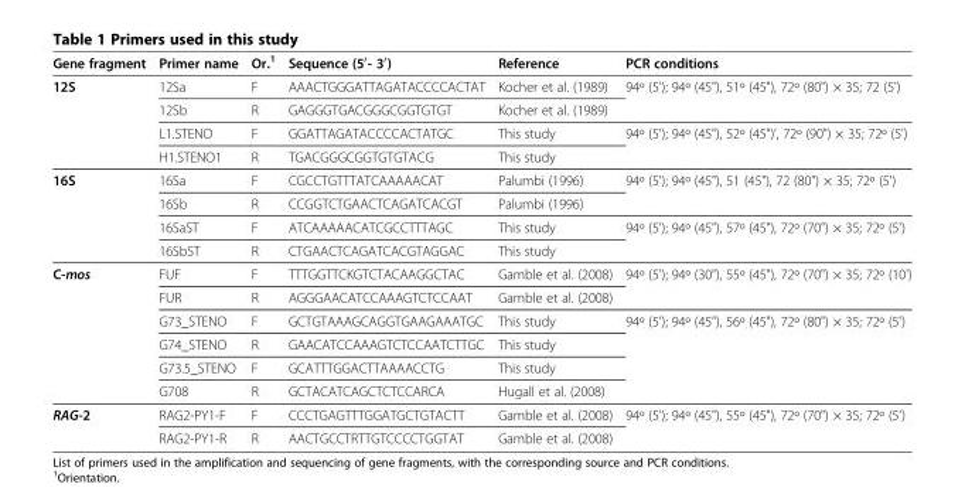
<table><thead><tr><td>Gene fragment</td><td>Primer name</td><td>Or.<sup>1</sup></td><td>Sequence (5′- 3′)</td><td>Reference</td><td>PCR conditions</td></tr></thead><tbody><tr><td rowspan="4">12S</td><td>12Sa</td><td>F</td><td>AAACTGGGATTAGATACCCCACTAT</td><td>Kocher et al. (1989)</td><td rowspan="2">94º (5&#x27;); 94º (45&quot;), 51º (45&quot;), 72º (80&quot;) × 35; 72 (5&#x27;)</td></tr><tr><td>12Sb</td><td>R</td><td>GAGGGTGACGGGCGGTGTGT</td><td>Kocher et al. (1989)</td></tr><tr><td>L1.STENO</td><td>F</td><td>GGATTAGATACCCCACTATGC</td><td>This study</td><td>94º (5&#x27;); 94º (45&quot;), 52º (45&quot;)’, 72º (90&quot;) × 35; 72º (5&#x27;)</td></tr><tr><td>H1.STENO1</td><td>R</td><td>TGACGGGCGGTGTGTACG</td><td>This study</td><td></td></tr><tr><td rowspan="4">16S</td><td>16Sa</td><td>F</td><td>CGCCTGTTTATCAAAAACAT</td><td>Palumbi (1996)</td><td>94º (5&#x27;); 94º (45&quot;), 51 (45&quot;), 72 (80&quot;) × 35; 72º (5&#x27;)</td></tr><tr><td>16Sb</td><td>R</td><td>CCGGTCTGAACTCAGATCACGT</td><td>Palumbi (1996)</td><td></td></tr><tr><td>16SaST</td><td>F</td><td>ATCAAAAACATCGCCTTTAGC</td><td>This study</td><td>94º (5&#x27;); 94º (45&quot;), 57º (45&quot;), 72º (70&quot;) × 35; 72º (5&#x27;)</td></tr><tr><td>16SbST</td><td>R</td><td>CTGAACTCAGATCACGTAGGAC</td><td>This study</td><td></td></tr><tr><td rowspan="6">C-mos</td><td>FUF</td><td>F</td><td>TTTGGTTCKGTCTACAAGGCTAC</td><td>Gamble et al. (2008)</td><td>94º (5&#x27;); 94º (30&quot;), 55º (45&quot;), 72º (70&quot;) × 35; 72º (10&#x27;)</td></tr><tr><td>FUR</td><td>R</td><td>AGGGAACATCCAAAGTCTCCAAT</td><td>Gamble et al. (2008)</td><td></td></tr><tr><td>G73_STENO</td><td>F</td><td>GCTGTAAAGCAGGTGAAGAAATGC</td><td>This study</td><td>94º (5&#x27;); 94º (45&quot;), 56º (45&quot;), 72º (80&quot;) × 35; 72º (5&#x27;)</td></tr><tr><td>G74_STENO</td><td>R</td><td>GAACATCCAAAGTCTCCAATCTTGC</td><td>This study</td><td></td></tr><tr><td>G73.5_STENO</td><td>F</td><td>GCATTTGGACTTAAAACCTG</td><td>This study</td><td></td></tr><tr><td>G708</td><td>R</td><td>GCTACATCAGCTCTCCARCA</td><td>Hugall et al. (2008)</td><td></td></tr><tr><td rowspan="2">RAG-2</td><td>RAG2-PY1-F</td><td>F</td><td>CCCTGAGTTTGGATGCTGTACTT</td><td>Gamble et al. (2008)</td><td rowspan="2">94º (5&#x27;); 94º (45&quot;), 55º (45&quot;), 72º (70&quot;) × 35; 72º (5&#x27;)</td></tr><tr><td>RAG2-PY1-R</td><td>R</td><td>AACTGCCTRTTGTCCCCTGGTAT</td><td>Gamble et al. (2008)</td></tr></tbody></table>